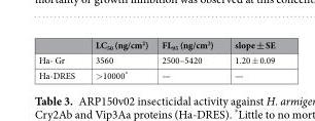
<table><thead><tr><td></td><td>LC<sub>50</sub> (ng/cm<sup>2</sup>)</td><td>FL<sub>95</sub> (ng/cm<sup>2</sup>)</td><td>slope ± SE</td></tr></thead><tbody><tr><td>Ha- Gr</td><td>3560</td><td>2500–5420</td><td>1.20 ± 0.09</td></tr><tr><td>Ha-DRES</td><td>&gt;10000*</td><td>—</td><td>—</td></tr></tbody></table>